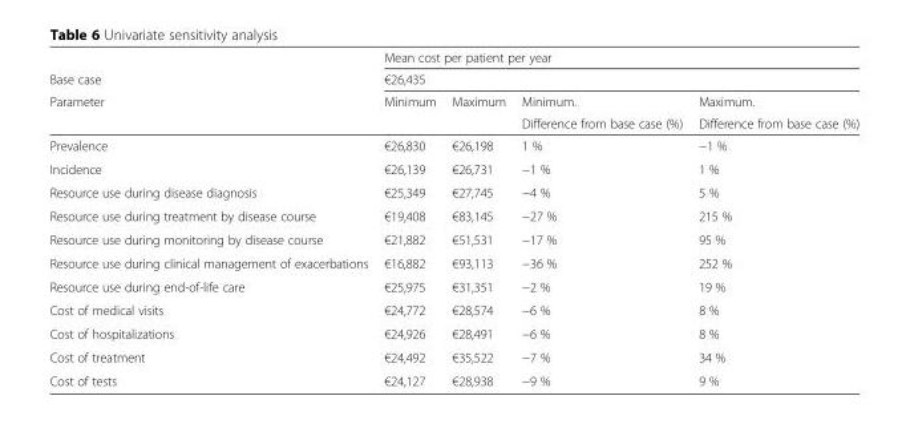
<table><thead><tr><td rowspan="4">Base case Parameter</td><td rowspan="2" colspan="4">Mean cost per patient per year €26,435</td></tr><tr></tr><tr><td rowspan="2">Minimum</td><td rowspan="2">Maximum</td><td rowspan="2">Minimum. Difference from base case (%)</td><td rowspan="2">Maximum. Difference from base case (%)</td></tr><tr></tr></thead><tbody><tr><td>Prevalence</td><td>€26,830</td><td>€26,198</td><td>1 %</td><td>−1 %</td></tr><tr><td>Incidence</td><td>€26,139</td><td>€26,731</td><td>−1 %</td><td>1 %</td></tr><tr><td>Resource use during disease diagnosis</td><td>€25,349</td><td>€27,745</td><td>−4 %</td><td>5 %</td></tr><tr><td>Resource use during treatment by disease course</td><td>€19,408</td><td>€83,145</td><td>−27 %</td><td>215 %</td></tr><tr><td>Resource use during monitoring by disease course</td><td>€21,882</td><td>€51,531</td><td>−17 %</td><td>95 %</td></tr><tr><td>Resource use during clinical management of exacerbations</td><td>€16,882</td><td>€93,113</td><td>−36 %</td><td>252 %</td></tr><tr><td>Resource use during end-of-life care</td><td>€25,975</td><td>€31,351</td><td>−2 %</td><td>19 %</td></tr><tr><td>Cost of medical visits</td><td>€24,772</td><td>€28,574</td><td>−6 %</td><td>8 %</td></tr><tr><td>Cost of hospitalizations</td><td>€24,926</td><td>€28,491</td><td>−6 %</td><td>8 %</td></tr><tr><td>Cost of treatment</td><td>€24,492</td><td>€35,522</td><td>−7 %</td><td>34 %</td></tr><tr><td>Cost of tests</td><td>€24,127</td><td>€28,938</td><td>−9 %</td><td>9 %</td></tr></tbody></table>